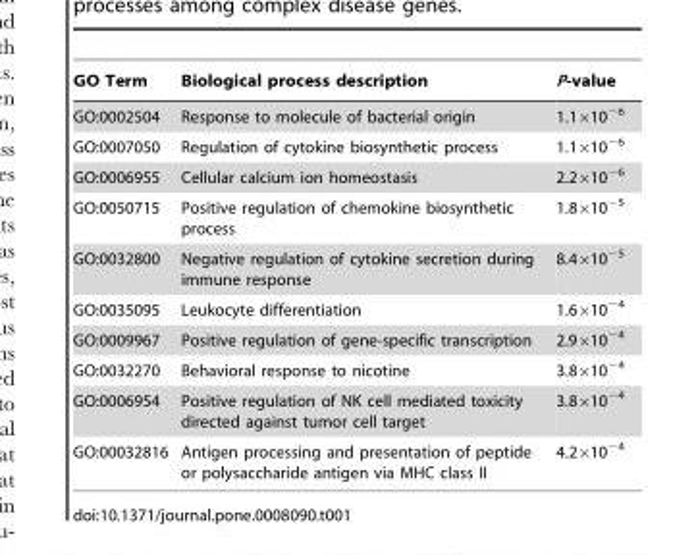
<table><thead><tr><td>GO Term</td><td>Biological process description</td><td>P-value</td></tr></thead><tbody><tr><td>GO:0002504</td><td>Response to molecule of bacterial origin</td><td>1.1×10<sup>−6</sup></td></tr><tr><td>GO:0007050</td><td>Regulation of cytokine biosynthetic process</td><td>1.1×10<sup>−6</sup></td></tr><tr><td>GO:0006955</td><td>Cellular calcium ion homeostasis</td><td>2.2×10<sup>−6</sup></td></tr><tr><td>GO:0050715</td><td>Positive regulation of chemokine biosynthetic process</td><td>1.8×10<sup>−5</sup></td></tr><tr><td>GO:0032800</td><td>Negative regulation of cytokine secretion during immune response</td><td>8.4×10<sup>−5</sup></td></tr><tr><td>GO:0035095</td><td>Leukocyte differentiation</td><td>1.6×10<sup>−4</sup></td></tr><tr><td>GO:0009967</td><td>Positive regulation of gene-specific transcription</td><td>2.9×10<sup>−4</sup></td></tr><tr><td>GO:0032270</td><td>Behavioral response to nicotine</td><td>3.8×10<sup>−4</sup></td></tr><tr><td>GO:0006954</td><td>Positive regulation of NK cell mediated toxicity directed against tumor cell target</td><td>3.8×10<sup>−4</sup></td></tr><tr><td>GO:00032816</td><td>Antigen processing and presentation of peptide or polysaccharide antigen via MHC class II</td><td>4.2×10<sup>−4</sup></td></tr></tbody></table>